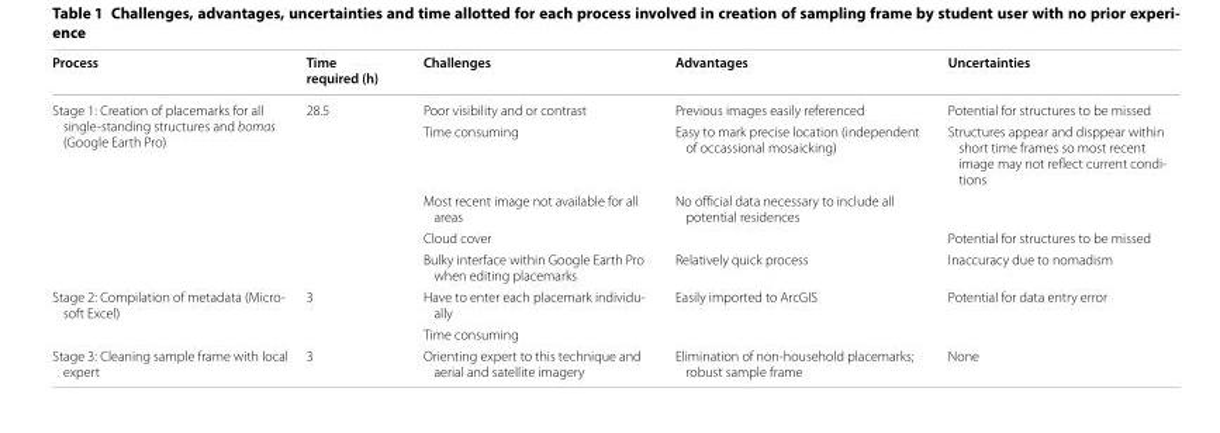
<table><thead><tr><td>Process</td><td>Time required (h)</td><td>Challenges</td><td>Advantages</td><td>Uncertainties</td></tr></thead><tbody><tr><td rowspan="5">Stage 1: Creation of placemarks for all single-standing structures and bomas (Google Earth Pro)</td><td rowspan="5">28.5</td><td>Poor visibility and or contrast</td><td>Previous images easily referenced</td><td>Potential for structures to be missed</td></tr><tr><td>Time consuming</td><td>Easy to mark precise location (independent of occassional mosaicking)</td><td>Structures appear and disppear within short time frames so most recent image may not reflect current condi- tions</td></tr><tr><td>Most recent image not available for all areas</td><td>No official data necessary to include all potential residences</td><td></td></tr><tr><td>Cloud cover</td><td></td><td>Potential for structures to be missed</td></tr><tr><td>Bulky interface within Google Earth Pro when editing placemarks</td><td>Relatively quick process</td><td>Inaccuracy due to nomadism</td></tr><tr><td rowspan="2">Stage 2: Compilation of metadata (Micro- soft Excel)</td><td rowspan="2">3</td><td>Have to enter each placemark individu- ally</td><td rowspan="2">Easily imported to ArcGIS</td><td rowspan="2">Potential for data entry error</td></tr><tr><td>Time consuming</td></tr><tr><td>Stage 3: Cleaning sample frame with local expert</td><td>3</td><td>Orienting expert to this technique and aerial and satellite imagery</td><td>Elimination of non-household placemarks; robust sample frame</td><td>None</td></tr></tbody></table>